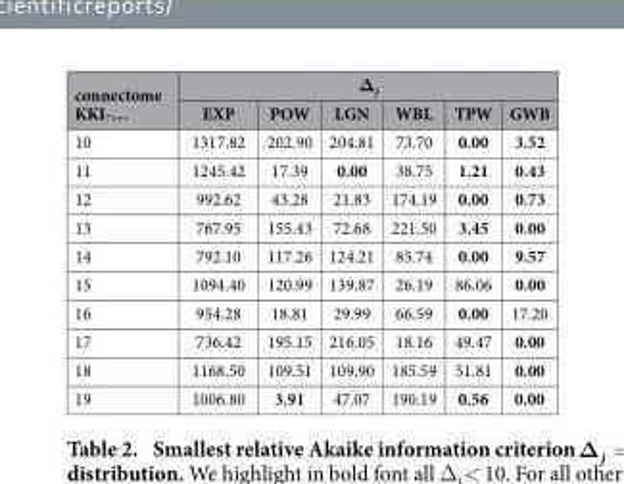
<table><thead><tr><td rowspan="2">connectome KKI-…</td><td colspan="6">Δ<sub>j</sub></td></tr><tr><td>EXP</td><td>POW</td><td>LGN</td><td>WBL</td><td>TPW</td><td>GWB</td></tr></thead><tbody><tr><td>10</td><td>1317.82</td><td>202.90</td><td>204.81</td><td>73.70</td><td>0.00</td><td>3.52</td></tr><tr><td>11</td><td>1245.42</td><td>17.39</td><td>0.00</td><td>38.75</td><td>1.21</td><td>0.43</td></tr><tr><td>12</td><td>992.62</td><td>43.28</td><td>21.83</td><td>174.19</td><td>0.00</td><td>0.73</td></tr><tr><td>13</td><td>767.95</td><td>155.43</td><td>72.68</td><td>221.50</td><td>3.45</td><td>0.00</td></tr><tr><td>14</td><td>792.10</td><td>117.26</td><td>124.21</td><td>85.74</td><td>0.00</td><td>9.57</td></tr><tr><td>15</td><td>1094.40</td><td>120.99</td><td>139.87</td><td>26.19</td><td>86.06</td><td>0.00</td></tr><tr><td>16</td><td>954.28</td><td>18.81</td><td>29.99</td><td>66.59</td><td>0.00</td><td>17.20</td></tr><tr><td>17</td><td>736.42</td><td>195.15</td><td>216.05</td><td>18.16</td><td>49.47</td><td>0.00</td></tr><tr><td>18</td><td>1168.50</td><td>109.51</td><td>109.90</td><td>185.59</td><td>51.81</td><td>0.00</td></tr><tr><td>19</td><td>1006.80</td><td>3.91</td><td>47.07</td><td>190.19</td><td>0.56</td><td>0.00</td></tr></tbody></table>